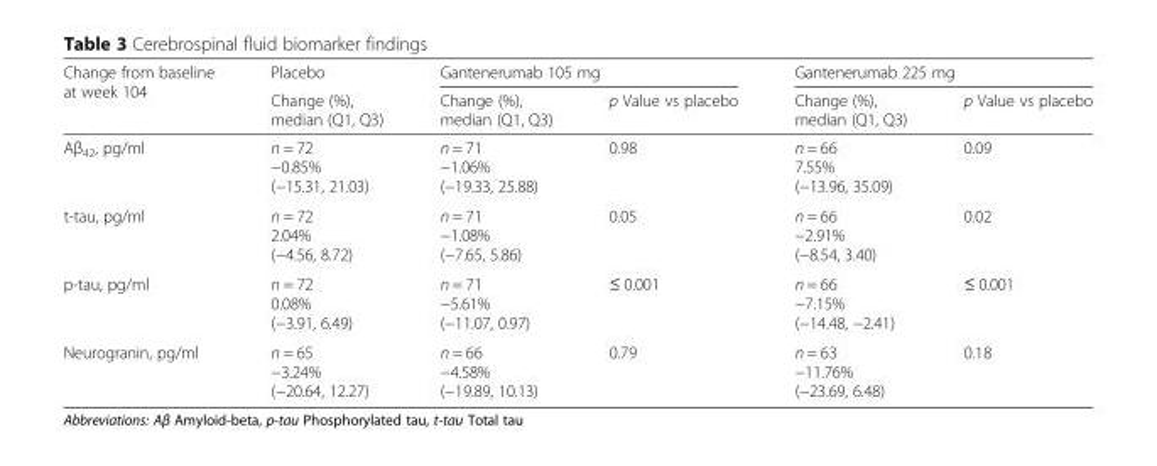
<table><thead><tr><td rowspan="2">Change from baseline at week 104</td><td rowspan="2">Placebo Change (%), median (Q1, Q3)</td><td colspan="2">Gantenerumab 105 mg</td><td colspan="2">Gantenerumab 225 mg</td></tr><tr><td>Change (%), median (Q1, Q3)</td><td>p Value vs placebo</td><td>Change (%), median (Q1, Q3)</td><td>p Value vs placebo</td></tr></thead><tbody><tr><td>Aβ<sub>42</sub>, pg/ml</td><td>n = 72 −0.85% (−15.31, 21.03)</td><td>n = 71 −1.06% (−19.33, 25.88)</td><td>0.98</td><td>n = 66 7.55% (−13.96, 35.09)</td><td>0.09</td></tr><tr><td>t-tau, pg/ml</td><td>n = 72 2.04% (−4.56, 8.72)</td><td>n = 71 −1.08% (−7.65, 5.86)</td><td>0.05</td><td>n = 66 −2.91% (−8.54, 3.40)</td><td>0.02</td></tr><tr><td>p-tau, pg/ml</td><td>n = 72 0.08% (−3.91, 6.49)</td><td>n = 71 −5.61% (−11.07, 0.97)</td><td>≤ 0.001</td><td>n = 66 −7.15% (−14.48, −2.41)</td><td>≤ 0.001</td></tr><tr><td>Neurogranin, pg/ml</td><td>n = 65 −3.24% (−20.64, 12.27)</td><td>n = 66 −4.58% (−19.89, 10.13)</td><td>0.79</td><td>n = 63 −11.76% (−23.69, 6.48)</td><td>0.18</td></tr></tbody></table>